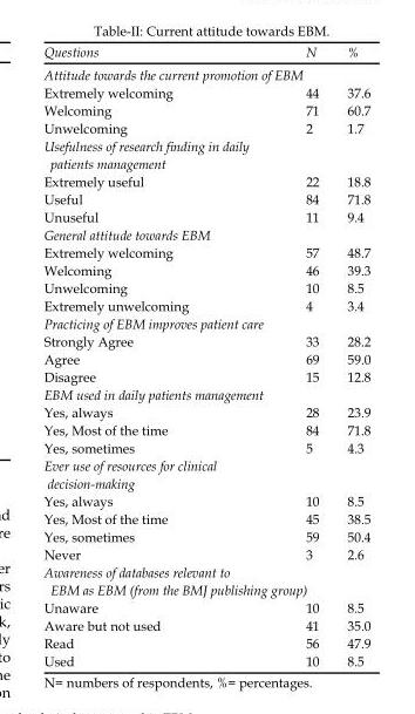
<table><thead><tr><td>Questions</td><td>N</td><td>%</td></tr></thead><tbody><tr><td colspan="3">Attitude towards the current promotion of EBM</td></tr><tr><td>Extremely welcoming</td><td>44</td><td>37.6</td></tr><tr><td>Welcoming</td><td>71</td><td>60.7</td></tr><tr><td>Unwelcoming</td><td>2</td><td>1.7</td></tr><tr><td colspan="3">Usefulness of research finding in daily patients management</td></tr><tr><td>Extremely useful</td><td>22</td><td>18.8</td></tr><tr><td>Useful</td><td>84</td><td>71.8</td></tr><tr><td>Unuseful</td><td>11</td><td>9.4</td></tr><tr><td colspan="3">General attitude towards EBM</td></tr><tr><td>Extremely welcoming</td><td>57</td><td>48.7</td></tr><tr><td>Welcoming</td><td>46</td><td>39.3</td></tr><tr><td>Unwelcoming</td><td>10</td><td>8.5</td></tr><tr><td>Extremely unwelcoming</td><td>4</td><td>3.4</td></tr><tr><td colspan="3">Practicing of EBM improves patient care</td></tr><tr><td>Strongly Agree</td><td>33</td><td>28.2</td></tr><tr><td>Agree</td><td>69</td><td>59.0</td></tr><tr><td>Disagree</td><td>15</td><td>12.8</td></tr><tr><td colspan="3">EBM used in daily patients management</td></tr><tr><td>Yes, always</td><td>28</td><td>23.9</td></tr><tr><td>Yes, Most of the time</td><td>84</td><td>71.8</td></tr><tr><td>Yes, sometimes</td><td>5</td><td>4.3</td></tr><tr><td colspan="3">Ever use of resources for clinical decision-making</td></tr><tr><td>Yes, always</td><td>10</td><td>8.5</td></tr><tr><td>Yes, Most of the time</td><td>45</td><td>38.5</td></tr><tr><td>Yes, sometimes</td><td>59</td><td>50.4</td></tr><tr><td>Never</td><td>3</td><td>2.6</td></tr><tr><td colspan="3">Awareness of databases relevant to EBM as EBM (from the BMJ publishing group)</td></tr><tr><td>Unaware</td><td>10</td><td>8.5</td></tr><tr><td>Aware but not used</td><td>41</td><td>35.0</td></tr><tr><td>Read</td><td>56</td><td>47.9</td></tr><tr><td>Used</td><td>10</td><td>8.5</td></tr></tbody></table>